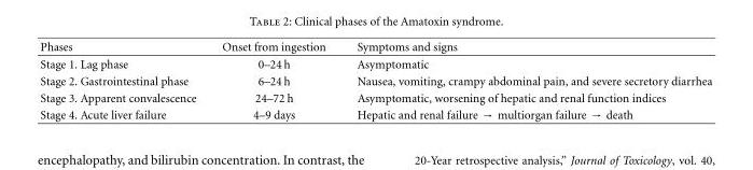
<table><thead><tr><td>Phases</td><td>Onset from ingestion</td><td>Symptoms and signs</td></tr></thead><tbody><tr><td>Stage 1. Lag phase</td><td>0–24 h</td><td>Asymptomatic</td></tr><tr><td>Stage 2. Gastrointestinal phase</td><td>6–24 h</td><td>Nausea, vomiting, crampy abdominal pain, and severe secretory diarrhea</td></tr><tr><td>Stage 3. Apparent convalescence</td><td>24–72 h</td><td>Asymptomatic, worsening of hepatic and renal function indices</td></tr><tr><td>Stage 4. Acute liver failure</td><td>4–9 days</td><td>Hepatic and renal failure → multiorgan failure → death</td></tr></tbody></table>